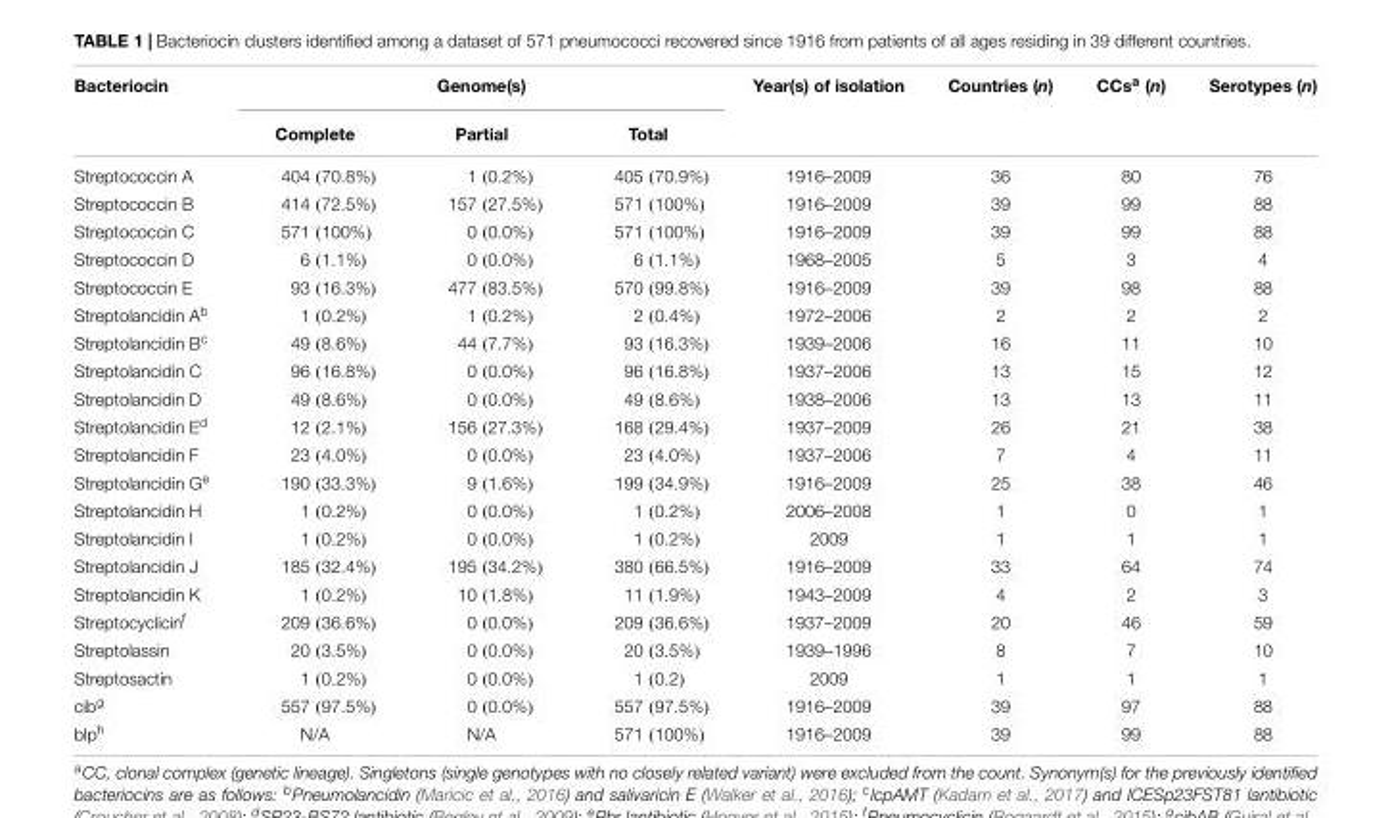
<table><thead><tr><td rowspan="2">Bacteriocin</td><td colspan="3">Genome(s)</td><td rowspan="2">Year(s) of isolation</td><td rowspan="2">Countries (n)</td><td rowspan="2">CCs<sup>a</sup> (n)</td><td rowspan="2">Serotypes (n)</td></tr><tr><td>Complete</td><td>Partial</td><td>Total</td></tr></thead><tbody><tr><td>Streptococcin A</td><td>404 (70.8%)</td><td>1 (0.2%)</td><td>405 (70.9%)</td><td>1916–2009</td><td>36</td><td>80</td><td>76</td></tr><tr><td>Streptococcin B</td><td>414 (72.5%)</td><td>157 (27.5%)</td><td>571 (100%)</td><td>1916–2009</td><td>39</td><td>99</td><td>88</td></tr><tr><td>Streptococcin C</td><td>571 (100%)</td><td>0 (0.0%)</td><td>571 (100%)</td><td>1916–2009</td><td>39</td><td>99</td><td>88</td></tr><tr><td>Streptococcin D</td><td>6 (1.1%)</td><td>0 (0.0%)</td><td>6 (1.1%)</td><td>1968–2005</td><td>5</td><td>3</td><td>4</td></tr><tr><td>Streptococcin E</td><td>93 (16.3%)</td><td>477 (83.5%)</td><td>570 (99.8%)</td><td>1916–2009</td><td>39</td><td>98</td><td>88</td></tr><tr><td>Streptolancidin A<sup>b</sup></td><td>1 (0.2%)</td><td>1 (0.2%)</td><td>2 (0.4%)</td><td>1972–2006</td><td>2</td><td>2</td><td>2</td></tr><tr><td>Streptolancidin B<sup>c</sup></td><td>49 (8.6%)</td><td>44 (7.7%)</td><td>93 (16.3%)</td><td>1939–2006</td><td>16</td><td>11</td><td>10</td></tr><tr><td>Streptolancidin C</td><td>96 (16.8%)</td><td>0 (0.0%)</td><td>96 (16.8%)</td><td>1937–2006</td><td>13</td><td>15</td><td>12</td></tr><tr><td>Streptolancidin D</td><td>49 (8.6%)</td><td>0 (0.0%)</td><td>49 (8.6%)</td><td>1938–2006</td><td>13</td><td>13</td><td>11</td></tr><tr><td>Streptolancidin E<sup>d</sup></td><td>12 (2.1%)</td><td>156 (27.3%)</td><td>168 (29.4%)</td><td>1937–2009</td><td>26</td><td>21</td><td>38</td></tr><tr><td>Streptolancidin F</td><td>23 (4.0%)</td><td>0 (0.0%)</td><td>23 (4.0%)</td><td>1937–2006</td><td>7</td><td>4</td><td>11</td></tr><tr><td>Streptolancidin G<sup>e</sup></td><td>190 (33.3%)</td><td>9 (1.6%)</td><td>199 (34.9%)</td><td>1916–2009</td><td>25</td><td>38</td><td>46</td></tr><tr><td>Streptolancidin H</td><td>1 (0.2%)</td><td>0 (0.0%)</td><td>1 (0.2%)</td><td>2006–2008</td><td>1</td><td>0</td><td>1</td></tr><tr><td>Streptolancidin I</td><td>1 (0.2%)</td><td>0 (0.0%)</td><td>1 (0.2%)</td><td>2009</td><td>1</td><td>1</td><td>1</td></tr><tr><td>Streptolancidin J</td><td>185 (32.4%)</td><td>195 (34.2%)</td><td>380 (66.5%)</td><td>1916–2009</td><td>33</td><td>64</td><td>74</td></tr><tr><td>Streptolancidin K</td><td>1 (0.2%)</td><td>10 (1.8%)</td><td>11 (1.9%)</td><td>1943–2009</td><td>4</td><td>2</td><td>3</td></tr><tr><td>Streptocyclicin<sup>f</sup></td><td>209 (36.6%)</td><td>0 (0.0%)</td><td>209 (36.6%)</td><td>1937–2009</td><td>20</td><td>46</td><td>59</td></tr><tr><td>Streptolassin</td><td>20 (3.5%)</td><td>0 (0.0%)</td><td>20 (3.5%)</td><td>1939–1996</td><td>8</td><td>7</td><td>10</td></tr><tr><td>Streptosactin</td><td>1 (0.2%)</td><td>0 (0.0%)</td><td>1 (0.2)</td><td>2009</td><td>1</td><td>1</td><td>1</td></tr><tr><td>cib<sup>g</sup></td><td>557 (97.5%)</td><td>0 (0.0%)</td><td>557 (97.5%)</td><td>1916–2009</td><td>39</td><td>97</td><td>88</td></tr><tr><td>blp<sup>h</sup></td><td>N/A</td><td>N/A</td><td>571 (100%)</td><td>1916–2009</td><td>39</td><td>99</td><td>88</td></tr></tbody></table>